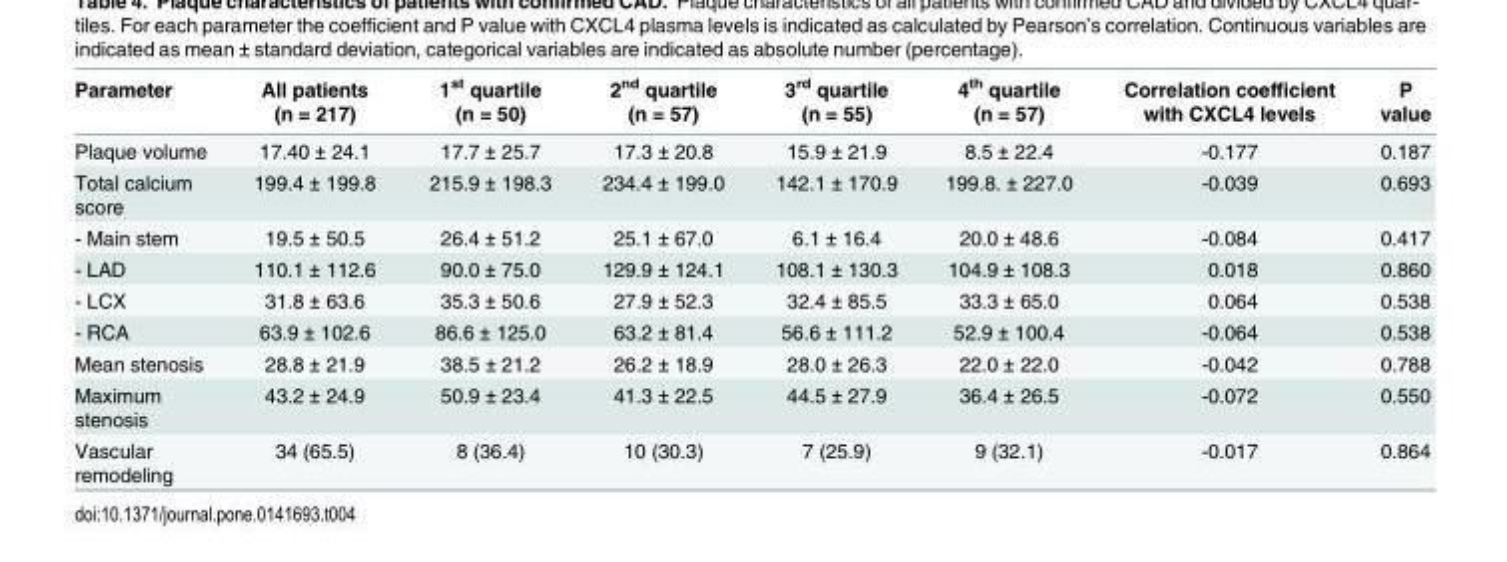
<table><thead><tr><td>Parameter</td><td>All patients (n = 217)</td><td>1<sup>st</sup> quartile (n = 50)</td><td>2<sup>nd</sup> quartile (n = 57)</td><td>3<sup>rd</sup> quartile (n = 55)</td><td>4<sup>th</sup> quartile (n = 57)</td><td>Correlation coefficient with CXCL4 levels</td><td>P value</td></tr></thead><tbody><tr><td>Plaque volume</td><td>17.40 ± 24.1</td><td>17.7 ± 25.7</td><td>17.3 ± 20.8</td><td>15.9 ± 21.9</td><td>8.5 ± 22.4</td><td>-0.177</td><td>0.187</td></tr><tr><td>Total calcium score</td><td>199.4 ± 199.8</td><td>215.9 ± 198.3</td><td>234.4 ± 199.0</td><td>142.1 ± 170.9</td><td>199.8. ± 227.0</td><td>-0.039</td><td>0.693</td></tr><tr><td>- Main stem</td><td>19.5 ± 50.5</td><td>26.4 ± 51.2</td><td>25.1 ± 67.0</td><td>6.1 ± 16.4</td><td>20.0 ± 48.6</td><td>-0.084</td><td>0.417</td></tr><tr><td>- LAD</td><td>110.1 ± 112.6</td><td>90.0 ± 75.0</td><td>129.9 ± 124.1</td><td>108.1 ± 130.3</td><td>104.9 ± 108.3</td><td>0.018</td><td>0.860</td></tr><tr><td>- LCX</td><td>31.8 ± 63.6</td><td>35.3 ± 50.6</td><td>27.9 ± 52.3</td><td>32.4 ± 85.5</td><td>33.3 ± 65.0</td><td>0.064</td><td>0.538</td></tr><tr><td>- RCA</td><td>63.9 ± 102.6</td><td>86.6 ± 125.0</td><td>63.2 ± 81.4</td><td>56.6 ± 111.2</td><td>52.9 ± 100.4</td><td>-0.064</td><td>0.538</td></tr><tr><td>Mean stenosis</td><td>28.8 ± 21.9</td><td>38.5 ± 21.2</td><td>26.2 ± 18.9</td><td>28.0 ± 26.3</td><td>22.0 ± 22.0</td><td>-0.042</td><td>0.788</td></tr><tr><td>Maximum stenosis</td><td>43.2 ± 24.9</td><td>50.9 ± 23.4</td><td>41.3 ± 22.5</td><td>44.5 ± 27.9</td><td>36.4 ± 26.5</td><td>-0.072</td><td>0.550</td></tr><tr><td>Vascular remodeling</td><td>34 (65.5)</td><td>8 (36.4)</td><td>10 (30.3)</td><td>7 (25.9)</td><td>9 (32.1)</td><td>-0.017</td><td>0.864</td></tr></tbody></table>